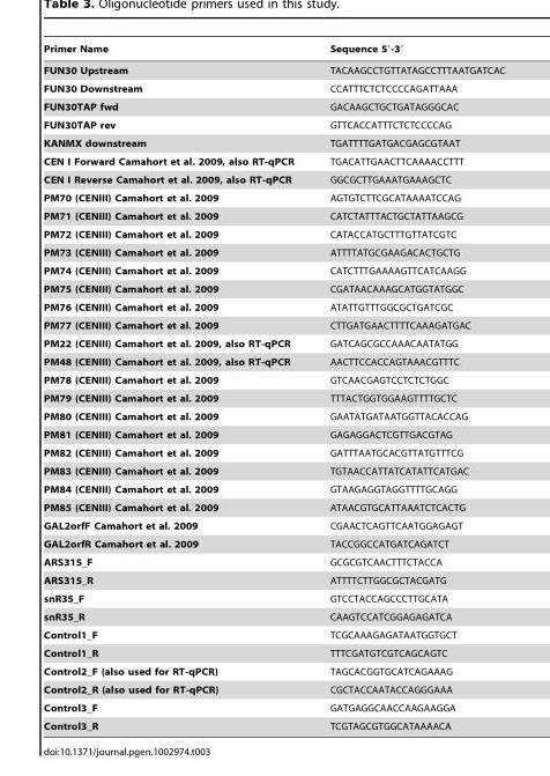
<table><thead><tr><td>Primer Name</td><td>Sequence 5′-3′</td></tr></thead><tbody><tr><td>FUN30 Upstream</td><td>TACAAGCCTGTTATAGCCTTTAATGATCAC</td></tr><tr><td>FUN30 Downstream</td><td>CCATTTCTCTCCCCAGATTAAA</td></tr><tr><td>FUN30TAP fwd</td><td>GACAAGCTGCTGATAGGGCAC</td></tr><tr><td>FUN30TAP rev</td><td>GTTCACCATTTCTCTCCCCAG</td></tr><tr><td>KANMX downstream</td><td>TGATTTTGATGACGAGCGTAAT</td></tr><tr><td>CEN I Forward Camahort et al. 2009, also RT-qPCR</td><td>TGACATTGAACTTCAAAACCTTT</td></tr><tr><td>CEN I Reverse Camahort et al. 2009, also RT-qPCR</td><td>GGCGCTTGAAATGAAAGCTC</td></tr><tr><td>PM70 (CENIII) Camahort et al. 2009</td><td>AGTGTCTTCGCATAAAATCCAG</td></tr><tr><td>PM71 (CENIII) Camahort et al. 2009</td><td>CATCTATTTACTGCTATTAAGCG</td></tr><tr><td>PM72 (CENIII) Camahort et al. 2009</td><td>CATACCATGCTTTGTTATCGTC</td></tr><tr><td>PM73 (CENIII) Camahort et al. 2009</td><td>ATTTTATGCGAAGACACTGCTG</td></tr><tr><td>PM74 (CENIII) Camahort et al. 2009</td><td>CATCTTTGAAAAGTTCATCAAGG</td></tr><tr><td>PM75 (CENIII) Camahort et al. 2009</td><td>CGATAACAAAGCATGGTATGGC</td></tr><tr><td>PM76 (CENIII) Camahort et al. 2009</td><td>ATATTGTTTGGCGCTGATCGC</td></tr><tr><td>PM77 (CENIII) Camahort et al. 2009</td><td>CTTGATGAACTTTTCAAAGATGAC</td></tr><tr><td>PM22 (CENIII) Camahort et al. 2009, also RT-qPCR</td><td>GATCAGCGCCAAACAATATGG</td></tr><tr><td>PM48 (CENIII) Camahort et al. 2009, also RT-qPCR</td><td>AACTTCCACCAGTAAACGTTTC</td></tr><tr><td>PM78 (CENIII) Camahort et al. 2009</td><td>GTCAACGAGTCCTCTCTGGC</td></tr><tr><td>PM79 (CENIII) Camahort et al. 2009</td><td>TTTACTGGTGGAAGTTTTGCTC</td></tr><tr><td>PM80 (CENIII) Camahort et al. 2009</td><td>GAATATGATAATGGTTACACCAG</td></tr><tr><td>PM81 (CENIII) Camahort et al. 2009</td><td>GAGAGGACTCGTTGACGTAG</td></tr><tr><td>PM82 (CENIII) Camahort et al. 2009</td><td>GATTTAATGCACGTTATGTTTCG</td></tr><tr><td>PM83 (CENIII) Camahort et al. 2009</td><td>TGTAACCATTATCATATTCATGAC</td></tr><tr><td>PM84 (CENIII) Camahort et al. 2009</td><td>GTAAGAGGTAGGTTTTGCAGG</td></tr><tr><td>PM85 (CENIII) Camahort et al. 2009</td><td>ATAACGTGCATTAAATCTCACTG</td></tr><tr><td>GAL2orfF Camahort et al. 2009</td><td>CGAACTCAGTTCAATGGAGAGT</td></tr><tr><td>GAL2orfR Camahort et al. 2009</td><td>TACCGGCCATGATCAGATCT</td></tr><tr><td>ARS315_F</td><td>GCGCGTCAACTTTCTACCA</td></tr><tr><td>ARS315_R</td><td>ATTTTCTTGGCGCTACGATG</td></tr><tr><td>snR35_F</td><td>GTCCTACCAGCCCTTGCATA</td></tr><tr><td>snR35_R</td><td>CAAGTCCATCGGAGAGATCA</td></tr><tr><td>Control1_F</td><td>TCGCAAAGAGATAATGGTGCT</td></tr><tr><td>Control1_R</td><td>TTTCGATGTCGTCAGCAGTC</td></tr><tr><td>Control2_F (also used for RT-qPCR)</td><td>TAGCACGGTGCATCAGAAAG</td></tr><tr><td>Control2_R (also used for RT-qPCR)</td><td>CGCTACCAATACCAGGGAAA</td></tr><tr><td>Control3_F</td><td>GATGAGGCAACCAAGAAGGA</td></tr><tr><td>Control3_R</td><td>TCGTAGCGTGGCATAAAACA</td></tr></tbody></table>